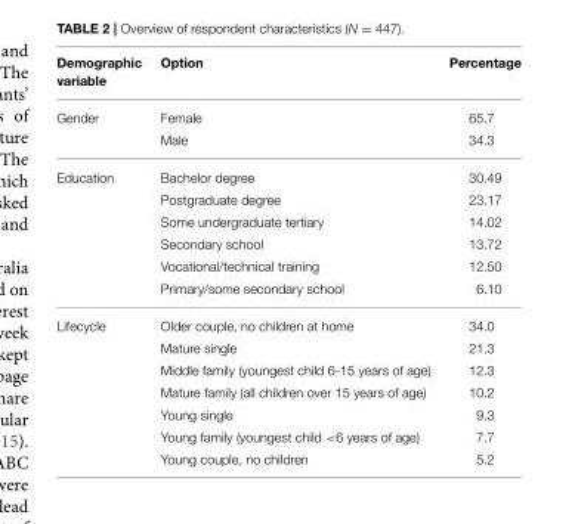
<table><thead><tr><td>Demographic variable</td><td>Option</td><td>Percentage</td></tr></thead><tbody><tr><td rowspan="2">Gender</td><td>Female</td><td>65.7</td></tr><tr><td>Male</td><td>34.3</td></tr><tr><td rowspan="6">Education</td><td>Bachelor degree</td><td>30.49</td></tr><tr><td>Postgraduate degree</td><td>23.17</td></tr><tr><td>Some undergraduate tertiary</td><td>14.02</td></tr><tr><td>Secondary school</td><td>13.72</td></tr><tr><td>Vocational/technical training</td><td>12.50</td></tr><tr><td>Primary/some secondary school</td><td>6.10</td></tr><tr><td rowspan="7">Lifecycle</td><td>Older couple, no children at home</td><td>34.0</td></tr><tr><td>Mature single</td><td>21.3</td></tr><tr><td>Middle family (youngest child 6-15 years of age)</td><td>12.3</td></tr><tr><td>Mature family (all children over 15 years of age)</td><td>10.2</td></tr><tr><td>Young single</td><td>9.3</td></tr><tr><td>Young family (youngest child &lt;6 years of age)</td><td>7.7</td></tr><tr><td>Young couple, no children</td><td>5.2</td></tr></tbody></table>